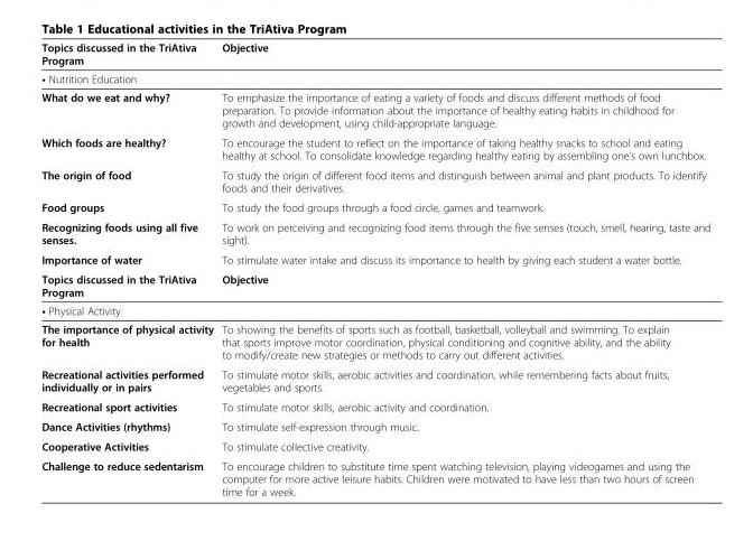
<table><tbody><tr><td>Topics discussed in the TriAtiva Program</td><td>Objective</td></tr><tr><td colspan="2">• Nutrition Education</td></tr><tr><td>What do we eat and why?</td><td>To emphasize the importance of eating a variety of foods and discuss different methods of food preparation. To provide information about the importance of healthy eating habits in childhood for growth and development, using child-appropriate language.</td></tr><tr><td>Which foods are healthy?</td><td>To encourage the student to reflect on the importance of taking healthy snacks to school and eating healthy at school. To consolidate knowledge regarding healthy eating by assembling one’s own lunchbox.</td></tr><tr><td>The origin of food</td><td>To study the origin of different food items and distinguish between animal and plant products. To identify foods and their derivatives.</td></tr><tr><td>Food groups</td><td>To study the food groups through a food circle, games and teamwork.</td></tr><tr><td>Recognizing foods using all five senses.</td><td>To work on perceiving and recognizing food items through the five senses (touch, smell, hearing, taste and sight).</td></tr><tr><td>Importance of water</td><td>To stimulate water intake and discuss its importance to health by giving each student a water bottle.</td></tr><tr><td>Topics discussed in the TriAtiva Program</td><td>Objective</td></tr><tr><td colspan="2">• Physical Activity</td></tr><tr><td>The importance of physical activity for health</td><td>To showing the benefits of sports such as football, basketball, volleyball and swimming. To explain that sports improve motor coordination, physical conditioning and cognitive ability, and the ability to modify/create new strategies or methods to carry out different activities.</td></tr><tr><td>Recreational activities performed individually or in pairs</td><td>To stimulate motor skills, aerobic activities and coordination, while remembering facts about fruits, vegetables and sports.</td></tr><tr><td>Recreational sport activities</td><td>To stimulate motor skills, aerobic activity and coordination.</td></tr><tr><td>Dance Activities (rhythms)</td><td>To stimulate self-expression through music.</td></tr><tr><td>Cooperative Activities</td><td>To stimulate collective creativity.</td></tr><tr><td>Challenge to reduce sedentarism</td><td>To encourage children to substitute time spent watching television, playing videogames and using the computer for more active leisure habits. Children were motivated to have less than two hours of screen time for a week.</td></tr></tbody></table>